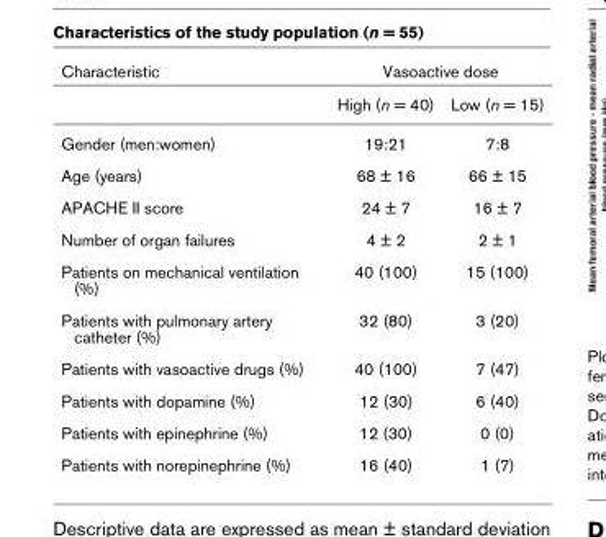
<table><thead><tr><td rowspan="2">Characteristic</td><td colspan="2">Vasoactive dose</td></tr><tr><td>High (n = 40)</td><td>Low (n = 15)</td></tr></thead><tbody><tr><td>Gender (men:women)</td><td>19:21</td><td>7:8</td></tr><tr><td>Age (years)</td><td>68 ± 16</td><td>66 ± 15</td></tr><tr><td>APACHE II score</td><td>24 ± 7</td><td>16 ± 7</td></tr><tr><td>Number of organ failures</td><td>4 ± 2</td><td>2 ± 1</td></tr><tr><td>Patients on mechanical ventilation (%)</td><td>40 (100)</td><td>15 (100)</td></tr><tr><td>Patients with pulmonary artery catheter (%)</td><td>32 (80)</td><td>3 (20)</td></tr><tr><td>Patients with vasoactive drugs (%)</td><td>40 (100)</td><td>7 (47)</td></tr><tr><td>Patients with dopamine (%)</td><td>12 (30)</td><td>6 (40)</td></tr><tr><td>Patients with epinephrine (%)</td><td>12 (30)</td><td>0 (0)</td></tr><tr><td>Patients with norepinephrine (%)</td><td>16 (40)</td><td>1 (7)</td></tr></tbody></table>